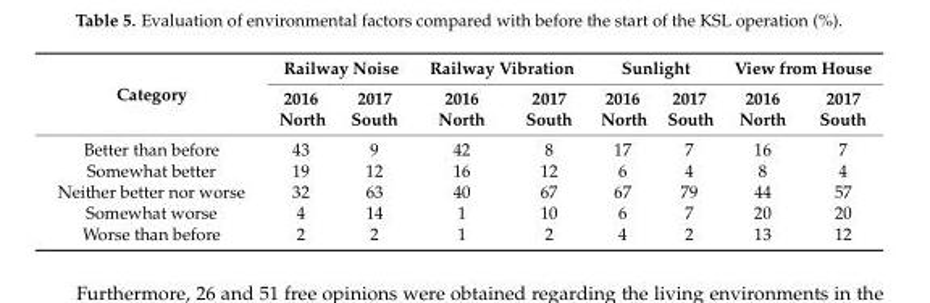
<table><thead><tr><td rowspan="2">Category</td><td colspan="2">Railway Noise</td><td colspan="2">Railway Vibration</td><td colspan="2">Sunlight</td><td colspan="2">View from House</td></tr><tr><td>2016 North</td><td>2017 South</td><td>2016 North</td><td>2017 South</td><td>2016 North</td><td>2017 South</td><td>2016 North</td><td>2017 South</td></tr></thead><tbody><tr><td>Better than before</td><td>43</td><td>9</td><td>42</td><td>8</td><td>17</td><td>7</td><td>16</td><td>7</td></tr><tr><td>Somewhat better</td><td>19</td><td>12</td><td>16</td><td>12</td><td>6</td><td>4</td><td>8</td><td>4</td></tr><tr><td>Neither better nor worse</td><td>32</td><td>63</td><td>40</td><td>67</td><td>67</td><td>79</td><td>44</td><td>57</td></tr><tr><td>Somewhat worse</td><td>4</td><td>14</td><td>1</td><td>10</td><td>6</td><td>7</td><td>20</td><td>20</td></tr><tr><td>Worse than before</td><td>2</td><td>2</td><td>1</td><td>2</td><td>4</td><td>2</td><td>13</td><td>12</td></tr></tbody></table>